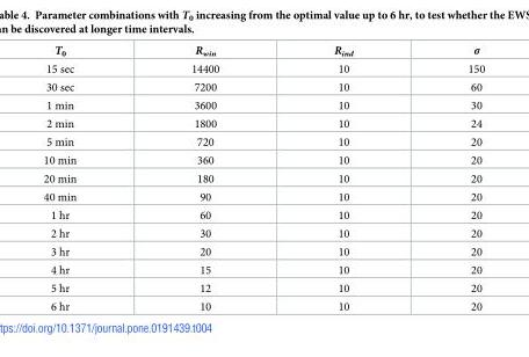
<table><thead><tr><td>T<sub>0</sub></td><td>R<sub>win</sub></td><td>R<sub>ind</sub></td><td>σ</td></tr></thead><tbody><tr><td>15 sec</td><td>14400</td><td>10</td><td>150</td></tr><tr><td>30 sec</td><td>7200</td><td>10</td><td>60</td></tr><tr><td>1 min</td><td>3600</td><td>10</td><td>30</td></tr><tr><td>2 min</td><td>1800</td><td>10</td><td>24</td></tr><tr><td>5 min</td><td>720</td><td>10</td><td>20</td></tr><tr><td>10 min</td><td>360</td><td>10</td><td>20</td></tr><tr><td>20 min</td><td>180</td><td>10</td><td>20</td></tr><tr><td>40 min</td><td>90</td><td>10</td><td>20</td></tr><tr><td>1 hr</td><td>60</td><td>10</td><td>20</td></tr><tr><td>2 hr</td><td>30</td><td>10</td><td>20</td></tr><tr><td>3 hr</td><td>20</td><td>10</td><td>20</td></tr><tr><td>4 hr</td><td>15</td><td>10</td><td>20</td></tr><tr><td>5 hr</td><td>12</td><td>10</td><td>20</td></tr><tr><td>6 hr</td><td>10</td><td>10</td><td>20</td></tr></tbody></table>